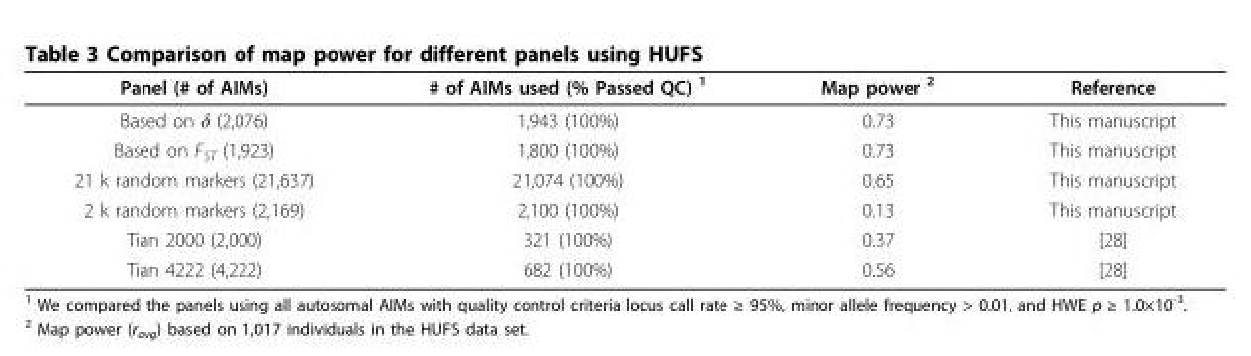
<table><thead><tr><td>Panel (# of AIMs)</td><td># of AIMs used (% Passed QC) <sup>1</sup></td><td>Map power <sup>2</sup></td><td>Reference</td></tr></thead><tbody><tr><td>Based on δ (2,076)</td><td>1,943 (100%)</td><td>0.73</td><td>This manuscript</td></tr><tr><td>Based on F<sub>ST</sub> (1,923)</td><td>1,800 (100%)</td><td>0.73</td><td>This manuscript</td></tr><tr><td>21 k random markers (21,637)</td><td>21,074 (100%)</td><td>0.65</td><td>This manuscript</td></tr><tr><td>2 k random markers (2,169)</td><td>2,100 (100%)</td><td>0.13</td><td>This manuscript</td></tr><tr><td>Tian 2000 (2,000)</td><td>321 (100%)</td><td>0.37</td><td>[28]</td></tr><tr><td>Tian 4222 (4,222)</td><td>682 (100%)</td><td>0.56</td><td>[28]</td></tr></tbody></table>